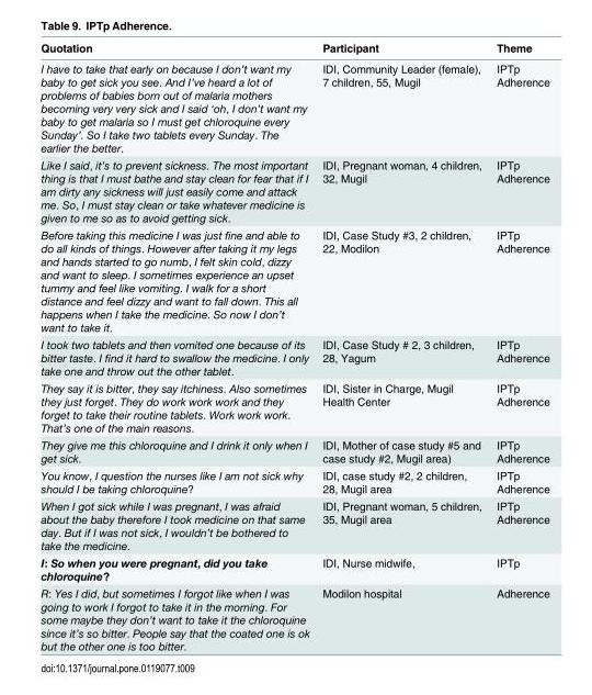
<table><thead><tr><td>Quotation</td><td>Participant</td><td>Theme</td></tr></thead><tbody><tr><td>I have to take that early on because I don’t want my baby to get sick you see. And I’ve heard a lot of problems of babies born out of malaria mothers becoming very very sick and I said ‘oh, I don’t want my baby to get malaria so I must get chloroquine every Sunday’. So I take two tablets every Sunday. The earlier the better.</td><td>IDI, Community Leader (female), 7 children, 55, Mugil</td><td>IPTp Adherence</td></tr><tr><td>Like I said, it’s to prevent sickness. The most important thing is that I must bathe and stay clean for fear that if I am dirty any sickness will just easily come and attack me. So, I must stay clean or take whatever medicine is given to me so as to avoid getting sick.</td><td>IDI, Pregnant woman, 4 children, 32, Mugil</td><td>IPTp Adherence</td></tr><tr><td>Before taking this medicine I was just fine and able to do all kinds of things. However after taking it my legs and hands started to go numb, I felt skin cold, dizzy and want to sleep. I sometimes experience an upset tummy and feel like vomiting. I walk for a short distance and feel dizzy and want to fall down. This all happens when I take the medicine. So now I don’t want to take it.</td><td>IDI, Case Study #3, 2 children, 22, Modilon</td><td>IPTp Adherence</td></tr><tr><td>I took two tablets and then vomited one because of its bitter taste. I find it hard to swallow the medicine. I only take one and throw out the other tablet.</td><td>IDI, Case Study # 2, 3 children, 28, Yagum</td><td>IPTp Adherence</td></tr><tr><td>They say it is bitter, they say itchiness. Also sometimes they just forget. They do work work work and they forget to take their routine tablets. Work work work. That’s one of the main reasons.</td><td>IDI, Sister in Charge, Mugil Health Center</td><td>IPTp Adherence</td></tr><tr><td>They give me this chloroquine and I drink it only when I get sick.</td><td>IDI, Mother of case study #5 and case study #2, Mugil area)</td><td>IPTp Adherence</td></tr><tr><td>You know, I question the nurses like I am not sick why should I be taking chloroquine?</td><td>IDI, case study #2, 2 children, 28, Mugil area</td><td>IPTp Adherence</td></tr><tr><td>When I got sick while I was pregnant, I was afraid about the baby therefore I took medicine on that same day. But if I was not sick, I wouldn’t be bothered to take the medicine.</td><td>IDI, Pregnant woman, 5 children, 35, Mugil area</td><td>IPTp Adherence</td></tr><tr><td>I: So when you were pregnant, did you take chloroquine?</td><td>IDI, Nurse midwife,</td><td>IPTp</td></tr><tr><td>R: Yes I did, but sometimes I forgot like when I was going to work I forgot to take it in the morning. For some maybe they don’t want to take it the chloroquine since it’s so bitter. People say that the coated one is ok but the other one is too bitter.</td><td>Modilon hospital</td><td>Adherence</td></tr></tbody></table>